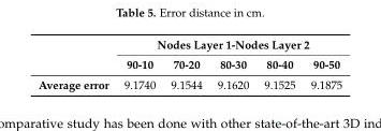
<table><thead><tr><td rowspan="2"></td><td colspan="5">Nodes Layer 1-Nodes Layer 2</td></tr><tr><td>90-10</td><td>70-20</td><td>80-30</td><td>80-40</td><td>90-50</td></tr></thead><tbody><tr><td>Average error</td><td>9.1740</td><td>9.1544</td><td>9.1620</td><td>9.1525</td><td>9.1875</td></tr></tbody></table>